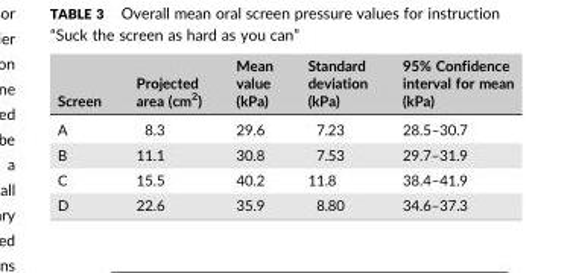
<table><thead><tr><td>Screen</td><td>Projected area (cm<sup>2</sup>)</td><td>Mean value (kPa)</td><td>Standard deviation (kPa)</td><td>95% Confidence interval for mean (kPa)</td></tr></thead><tbody><tr><td>A</td><td>8.3</td><td>29.6</td><td>7.23</td><td>28.5–30.7</td></tr><tr><td>B</td><td>11.1</td><td>30.8</td><td>7.53</td><td>29.7–31.9</td></tr><tr><td>C</td><td>15.5</td><td>40.2</td><td>11.8</td><td>38.4–41.9</td></tr><tr><td>D</td><td>22.6</td><td>35.9</td><td>8.80</td><td>34.6–37.3</td></tr></tbody></table>